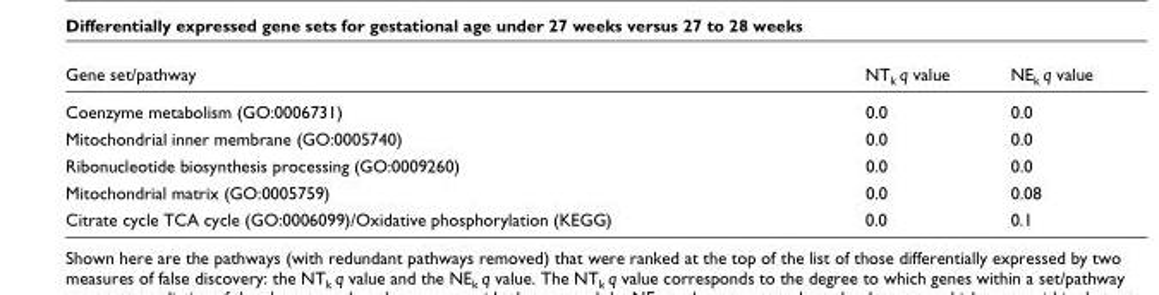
<table><thead><tr><td>Gene set/pathway</td><td>NT<sub>k</sub> q value</td><td>NE<sub>k</sub> q value</td></tr></thead><tbody><tr><td>Coenzyme metabolism (GO:0006731)</td><td>0.0</td><td>0.0</td></tr><tr><td>Mitochondrial inner membrane (GO:0005740)</td><td>0.0</td><td>0.0</td></tr><tr><td>Ribonucleotide biosynthesis processing (GO:0009260)</td><td>0.0</td><td>0.0</td></tr><tr><td>Mitochondrial matrix (GO:0005759)</td><td>0.0</td><td>0.08</td></tr><tr><td>Citrate cycle TCA cycle (GO:0006099)/Oxidative phosphorylation (KEGG)</td><td>0.0</td><td>0.1</td></tr></tbody></table>